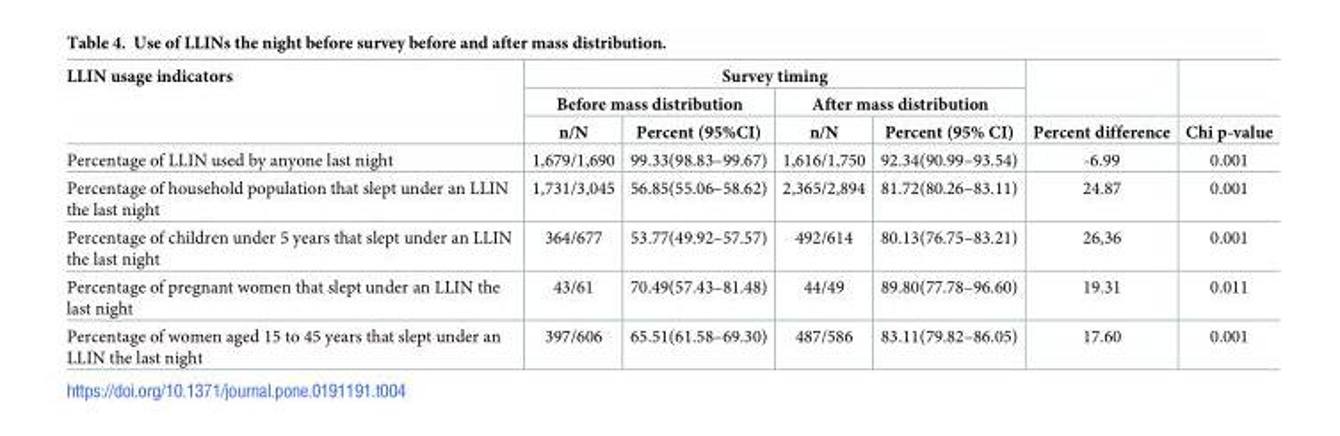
<table><thead><tr><td rowspan="3">LLIN usage indicators</td><td colspan="4">Survey timing</td><td rowspan="3">Percent difference</td><td rowspan="3">Chi p-value</td></tr><tr><td colspan="2">Before mass distribution</td><td colspan="2">After mass distribution</td></tr><tr><td>n/N</td><td>Percent (95%CI)</td><td>n/N</td><td>Percent (95% CI)</td></tr></thead><tbody><tr><td>Percentage of LLIN used by anyone last night</td><td>1,679/1,690</td><td>99.33(98.83–99.67)</td><td>1,616/1,750</td><td>92.34(90.99–93.54)</td><td>-6.99</td><td>0.001</td></tr><tr><td>Percentage of household population that slept under an LLIN the last night</td><td>1,731/3,045</td><td>56.85(55.06–58.62)</td><td>2,365/2,894</td><td>81.72(80.26–83.11)</td><td>24.87</td><td>0.001</td></tr><tr><td>Percentage of children under 5 years that slept under an LLIN the last night</td><td>364/677</td><td>53.77(49.92–57.57)</td><td>492/614</td><td>80.13(76.75–83.21)</td><td>26,36</td><td>0.001</td></tr><tr><td>Percentage of pregnant women that slept under an LLIN the last night</td><td>43/61</td><td>70.49(57.43–81.48)</td><td>44/49</td><td>89.80(77.78–96.60)</td><td>19.31</td><td>0.011</td></tr><tr><td>Percentage of women aged 15 to 45 years that slept under an LLIN the last night</td><td>397/606</td><td>65.51(61.58–69.30)</td><td>487/586</td><td>83.11(79.82–86.05)</td><td>17.60</td><td>0.001</td></tr></tbody></table>